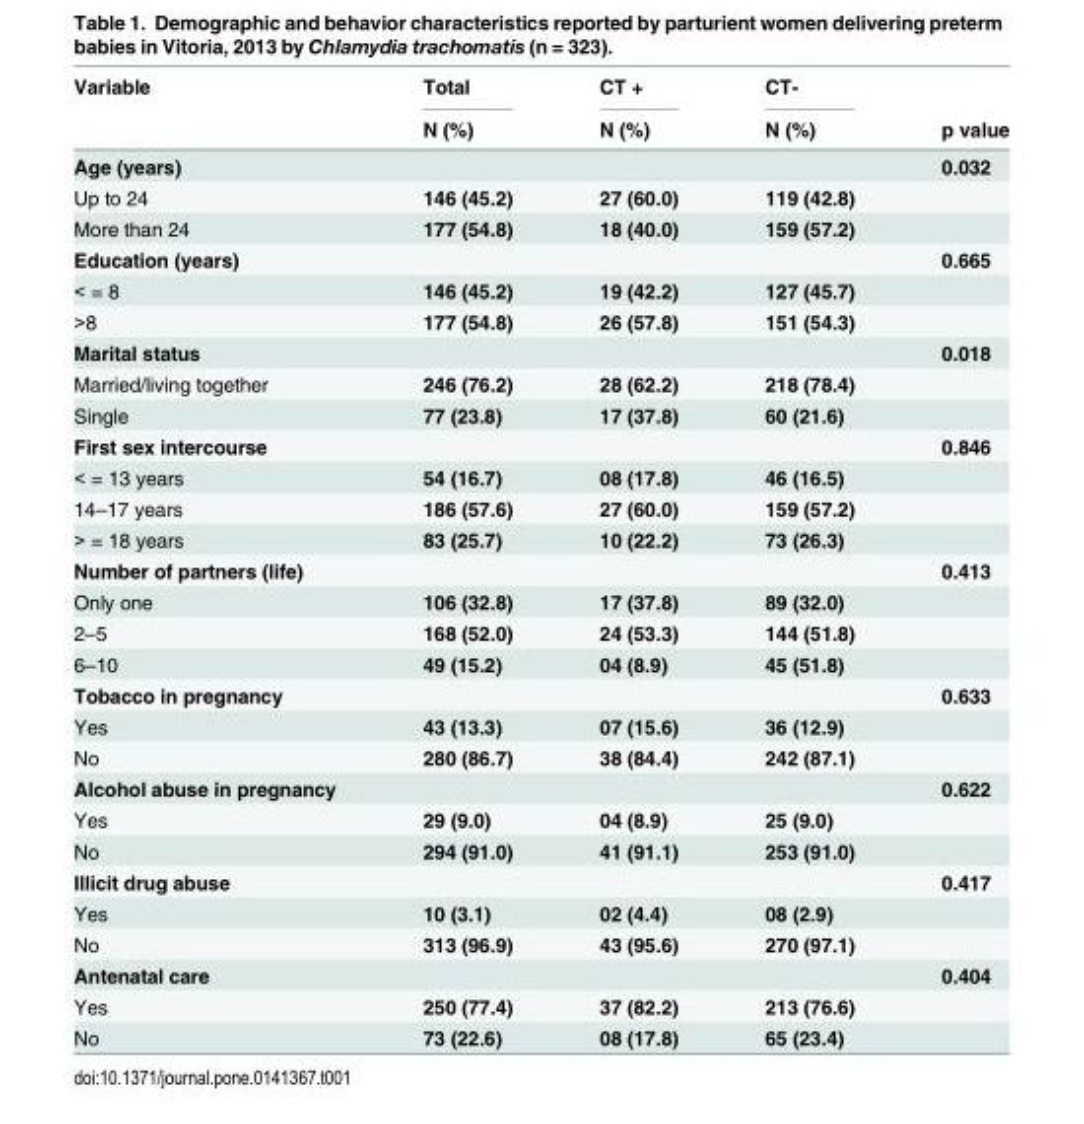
<table><thead><tr><td rowspan="2">Variable</td><td rowspan="2">Total N (%)</td><td rowspan="2">CT + N (%)</td><td rowspan="2">CT- N (%)</td><td rowspan="2">p value</td></tr><tr></tr></thead><tbody><tr><td>Age (years)</td><td></td><td></td><td></td><td>0.032</td></tr><tr><td>Up to 24</td><td>146 (45.2)</td><td>27 (60.0)</td><td>119 (42.8)</td><td></td></tr><tr><td>More than 24</td><td>177 (54.8)</td><td>18 (40.0)</td><td>159 (57.2)</td><td></td></tr><tr><td>Education (years)</td><td></td><td></td><td></td><td>0.665</td></tr><tr><td>&lt; = 8</td><td>146 (45.2)</td><td>19 (42.2)</td><td>127 (45.7)</td><td></td></tr><tr><td>&gt;8</td><td>177 (54.8)</td><td>26 (57.8)</td><td>151 (54.3)</td><td></td></tr><tr><td>Marital status</td><td></td><td></td><td></td><td>0.018</td></tr><tr><td>Married/living together</td><td>246 (76.2)</td><td>28 (62.2)</td><td>218 (78.4)</td><td></td></tr><tr><td>Single</td><td>77 (23.8)</td><td>17 (37.8)</td><td>60 (21.6)</td><td></td></tr><tr><td>First sex intercourse</td><td></td><td></td><td></td><td>0.846</td></tr><tr><td>&lt; = 13 years</td><td>54 (16.7)</td><td>08 (17.8)</td><td>46 (16.5)</td><td></td></tr><tr><td>14–17 years</td><td>186 (57.6)</td><td>27 (60.0)</td><td>159 (57.2)</td><td></td></tr><tr><td>&gt; = 18 years</td><td>83 (25.7)</td><td>10 (22.2)</td><td>73 (26.3)</td><td></td></tr><tr><td>Number of partners (life)</td><td></td><td></td><td></td><td>0.413</td></tr><tr><td>Only one</td><td>106 (32.8)</td><td>17 (37.8)</td><td>89 (32.0)</td><td></td></tr><tr><td>2–5</td><td>168 (52.0)</td><td>24 (53.3)</td><td>144 (51.8)</td><td></td></tr><tr><td>6–10</td><td>49 (15.2)</td><td>04 (8.9)</td><td>45 (51.8)</td><td></td></tr><tr><td>Tobacco in pregnancy</td><td></td><td></td><td></td><td>0.633</td></tr><tr><td>Yes</td><td>43 (13.3)</td><td>07 (15.6)</td><td>36 (12.9)</td><td></td></tr><tr><td>No</td><td>280 (86.7)</td><td>38 (84.4)</td><td>242 (87.1)</td><td></td></tr><tr><td>Alcohol abuse in pregnancy</td><td></td><td></td><td></td><td>0.622</td></tr><tr><td>Yes</td><td>29 (9.0)</td><td>04 (8.9)</td><td>25 (9.0)</td><td></td></tr><tr><td>No</td><td>294 (91.0)</td><td>41 (91.1)</td><td>253 (91.0)</td><td></td></tr><tr><td>Illicit drug abuse</td><td></td><td></td><td></td><td>0.417</td></tr><tr><td>Yes</td><td>10 (3.1)</td><td>02 (4.4)</td><td>08 (2.9)</td><td></td></tr><tr><td>No</td><td>313 (96.9)</td><td>43 (95.6)</td><td>270 (97.1)</td><td></td></tr><tr><td>Antenatal care</td><td></td><td></td><td></td><td>0.404</td></tr><tr><td>Yes</td><td>250 (77.4)</td><td>37 (82.2)</td><td>213 (76.6)</td><td></td></tr><tr><td>No</td><td>73 (22.6)</td><td>08 (17.8)</td><td>65 (23.4)</td><td></td></tr></tbody></table>